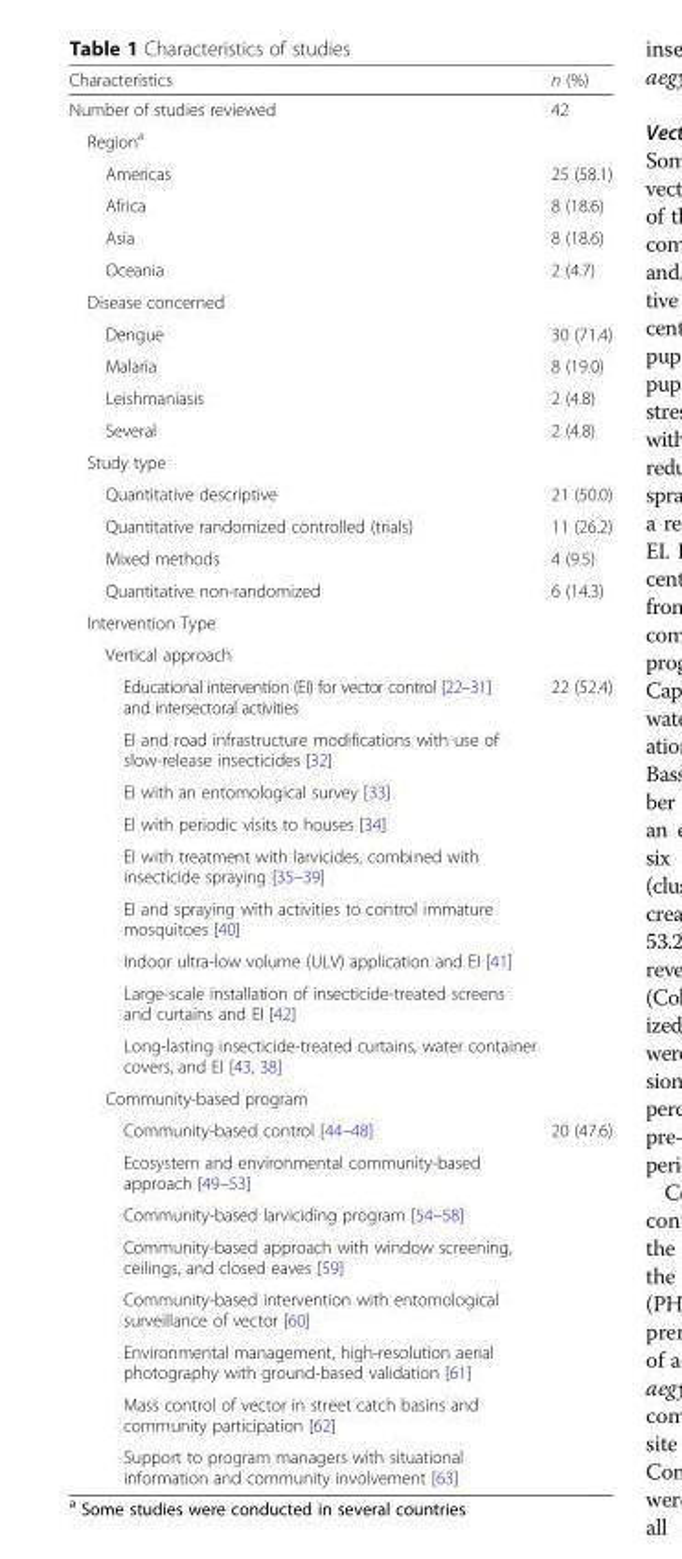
<table><thead><tr><td>Characteristics</td><td>n (%)</td></tr></thead><tbody><tr><td>Number of studies reviewed</td><td>42</td></tr><tr><td colspan="2">Region<sup>a</sup></td></tr><tr><td>Americas</td><td>25 (58.1)</td></tr><tr><td>Africa</td><td>8 (18.6)</td></tr><tr><td>Asia</td><td>8 (18.6)</td></tr><tr><td>Oceania</td><td>2 (4.7)</td></tr><tr><td colspan="2">Disease concerned</td></tr><tr><td>Dengue</td><td>30 (71.4)</td></tr><tr><td>Malaria</td><td>8 (19.0)</td></tr><tr><td>Leishmaniasis</td><td>2 (4.8)</td></tr><tr><td>Several</td><td>2 (4.8)</td></tr><tr><td colspan="2">Study type</td></tr><tr><td>Quantitative descriptive</td><td>21 (50.0)</td></tr><tr><td>Quantitative randomized controlled (trials)</td><td>11 (26.2)</td></tr><tr><td>Mixed methods</td><td>4 (9.5)</td></tr><tr><td>Quantitative non-randomized</td><td>6 (14.3)</td></tr><tr><td colspan="2">Intervention Type</td></tr><tr><td colspan="2">Vertical approach</td></tr><tr><td>Educational intervention (EI) for vector control [22–31] and intersectoral activities</td><td rowspan="9">22 (52.4)</td></tr><tr><td>EI and road infrastructure modifications with use of slow-release insecticides [32]</td></tr><tr><td>EI with an entomological survey [33]</td></tr><tr><td>EI with periodic visits to houses [34]</td></tr><tr><td>EI with treatment with larvicides, combined with insecticide spraying [35–39]</td></tr><tr><td>EI and spraying with activities to control immature mosquitoes [40]</td></tr><tr><td>Indoor ultra-low volume (ULV) application and EI [41]</td></tr><tr><td>Large-scale installation of insecticide-treated screens and curtains and EI [42]</td></tr><tr><td>Long-lasting insecticide-treated curtains, water container covers, and EI [43, 38]</td></tr><tr><td colspan="2">Community-based program</td></tr><tr><td>Community-based control [44–48]</td><td rowspan="8">20 (47.6)</td></tr><tr><td>Ecosystem and environmental community-based approach [49–53]</td></tr><tr><td>Community-based larviciding program [54–58]</td></tr><tr><td>Community-based approach with window screening, ceilings, and closed eaves [59]</td></tr><tr><td>Community-based intervention with entomological surveillance of vector [60]</td></tr><tr><td>Environmental management, high-resolution aerial photography with ground-based validation [61]</td></tr><tr><td>Mass control of vector in street catch basins and community participation [62]</td></tr><tr><td>Support to program managers with situational information and community involvement [63]</td></tr></tbody></table>